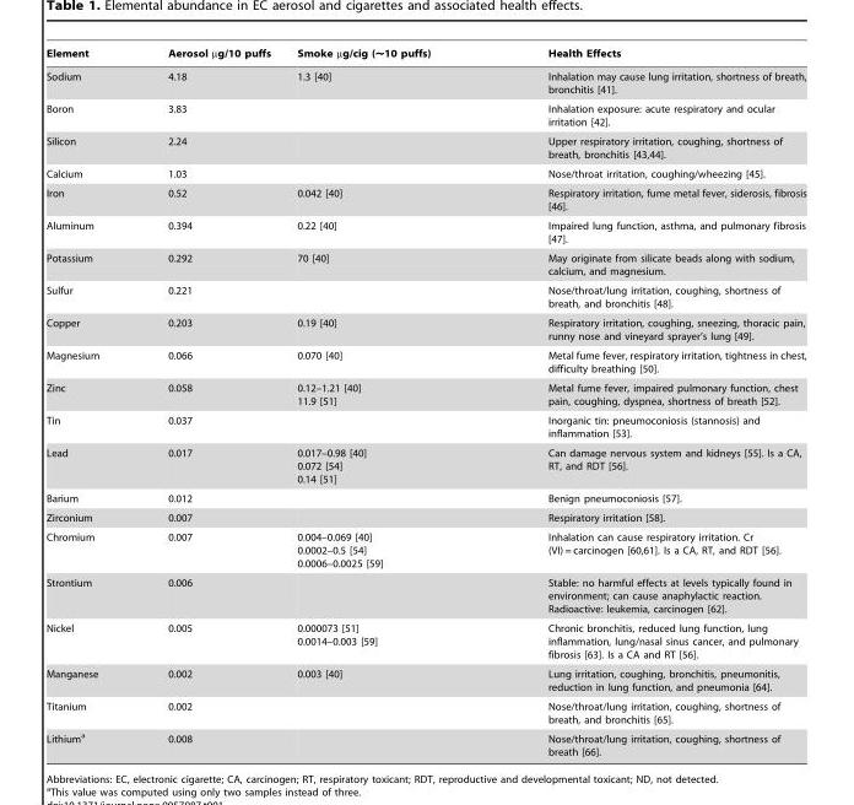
<table><thead><tr><td>Element</td><td>Aerosol µg/10 puffs</td><td>Smoke µg/cig (∼10 puffs)</td><td>Health Effects</td></tr></thead><tbody><tr><td>Sodium</td><td>4.18</td><td>1.3 [40]</td><td>Inhalation may cause lung irritation, shortness of breath, bronchitis [41].</td></tr><tr><td>Boron</td><td>3.83</td><td></td><td>Inhalation exposure: acute respiratory and ocular irritation [42].</td></tr><tr><td>Silicon</td><td>2.24</td><td></td><td>Upper respiratory irritation, coughing, shortness of breath, bronchitis [43,44].</td></tr><tr><td>Calcium</td><td>1.03</td><td></td><td>Nose/throat irritation, coughing/wheezing [45].</td></tr><tr><td>Iron</td><td>0.52</td><td>0.042 [40]</td><td>Respiratory irritation, fume metal fever, siderosis, fibrosis [46].</td></tr><tr><td>Aluminum</td><td>0.394</td><td>0.22 [40]</td><td>Impaired lung function, asthma, and pulmonary fibrosis [47].</td></tr><tr><td>Potassium</td><td>0.292</td><td>70 [40]</td><td>May originate from silicate beads along with sodium, calcium, and magnesium.</td></tr><tr><td>Sulfur</td><td>0.221</td><td></td><td>Nose/throat/lung irritation, coughing, shortness of breath, and bronchitis [48].</td></tr><tr><td>Copper</td><td>0.203</td><td>0.19 [40]</td><td>Respiratory irritation, coughing, sneezing, thoracic pain, runny nose and vineyard sprayer’s lung [49].</td></tr><tr><td>Magnesium</td><td>0.066</td><td>0.070 [40]</td><td>Metal fume fever, respiratory irritation, tightness in chest, difficulty breathing [50].</td></tr><tr><td>Zinc</td><td>0.058</td><td>0.12–1.21 [40] 11.9 [51]</td><td>Metal fume fever, impaired pulmonary function, chest pain, coughing, dyspnea, shortness of breath [52].</td></tr><tr><td>Tin</td><td>0.037</td><td></td><td>Inorganic tin: pneumoconiosis (stannosis) and inflammation [53].</td></tr><tr><td>Lead</td><td>0.017</td><td>0.017–0.98 [40] 0.072 [54] 0.14 [51]</td><td>Can damage nervous system and kidneys [55]. Is a CA, RT, and RDT [56].</td></tr><tr><td>Barium</td><td>0.012</td><td></td><td>Benign pneumoconiosis [57].</td></tr><tr><td>Zirconium</td><td>0.007</td><td></td><td>Respiratory irritation [58].</td></tr><tr><td>Chromium</td><td>0.007</td><td>0.004–0.069 [40] 0.0002–0.5 [54] 0.0006–0.0025 [59]</td><td>Inhalation can cause respiratory irritation. Cr (VI) = carcinogen [60,61]. Is a CA, RT, and RDT [56].</td></tr><tr><td>Strontium</td><td>0.006</td><td></td><td>Stable: no harmful effects at levels typically found in environment; can cause anaphylactic reaction. Radioactive: leukemia, carcinogen [62].</td></tr><tr><td>Nickel</td><td>0.005</td><td>0.000073 [51] 0.0014–0.003 [59]</td><td>Chronic bronchitis, reduced lung function, lung inflammation, lung/nasal sinus cancer, and pulmonary fibrosis [63]. Is a CA and RT [56].</td></tr><tr><td>Manganese</td><td>0.002</td><td>0.003 [40]</td><td>Lung irritation, coughing, bronchitis, pneumonitis, reduction in lung function, and pneumonia [64].</td></tr><tr><td>Titanium</td><td>0.002</td><td></td><td>Nose/throat/lung irritation, coughing, shortness of breath, and bronchitis [65].</td></tr><tr><td>Lithium<sup>a</sup></td><td>0.008</td><td></td><td>Nose/throat/lung irritation, coughing, shortness of breath [66].</td></tr></tbody></table>